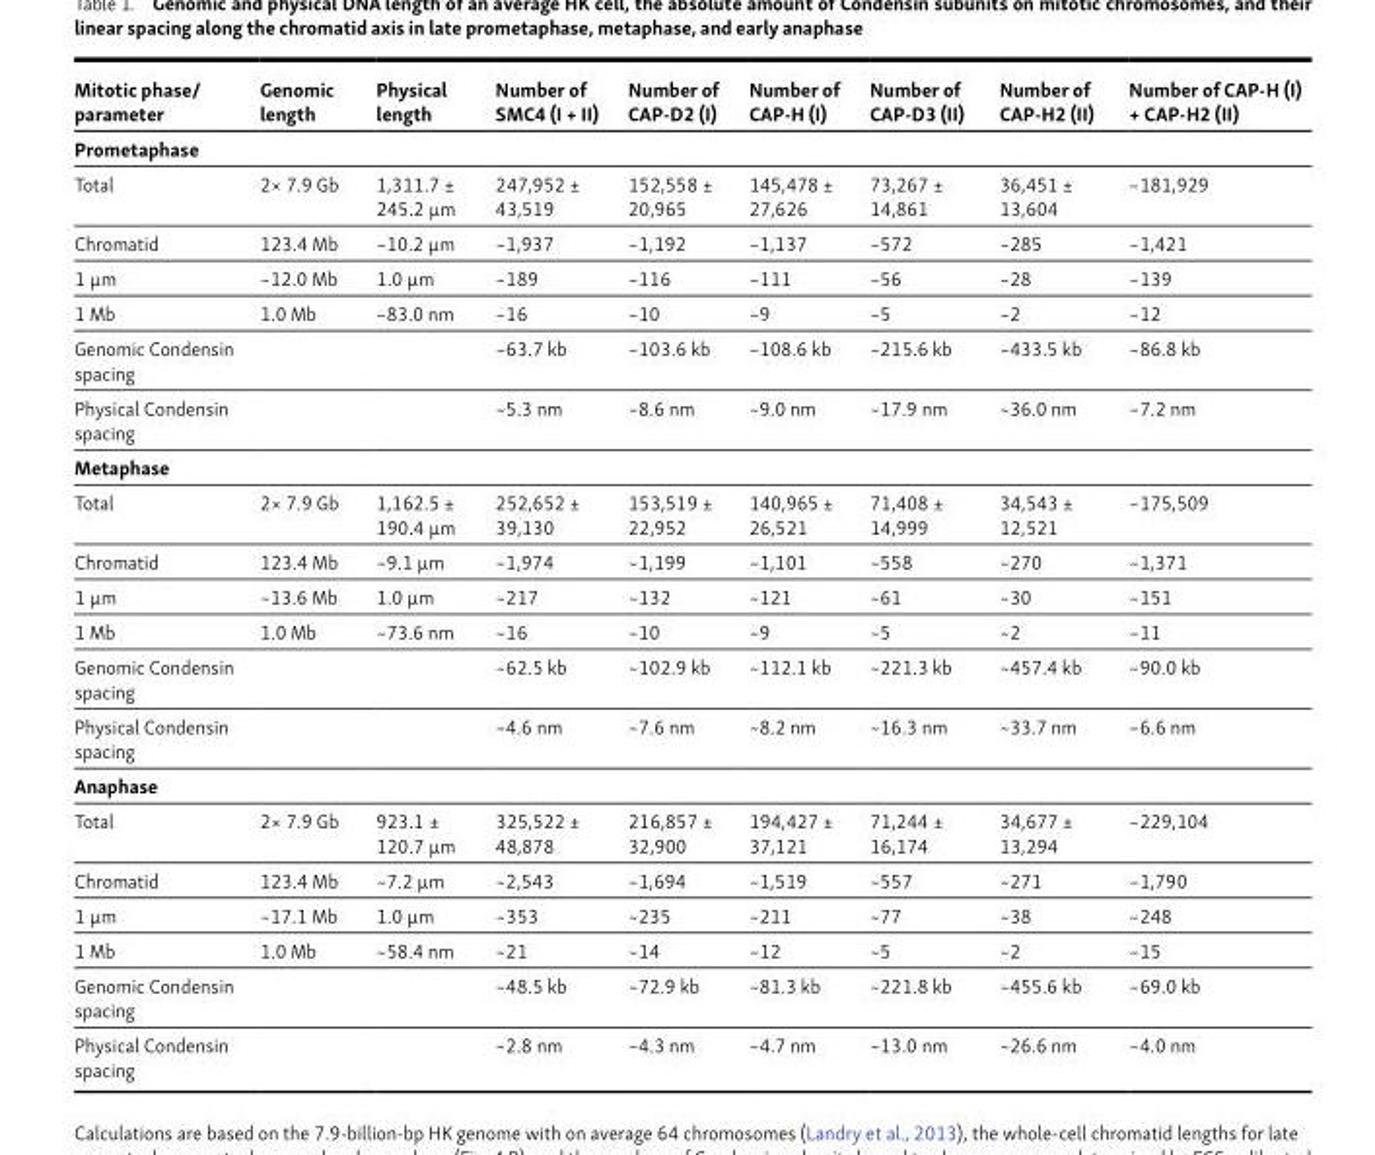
<table><thead><tr><td>Mitotic phase/ parameter</td><td>Genomic length</td><td>Physical length</td><td>Number of SMC4 (I + II)</td><td>Number of CAP-D2 (I)</td><td>Number of CAP-H (I)</td><td>Number of CAP-D3 (II)</td><td>Number of CAP-H2 (II)</td><td>Number of CAP-H (I) + CAP-H2 (II)</td></tr></thead><tbody><tr><td colspan="9">Prometaphase</td></tr><tr><td>Total</td><td>2× 7.9 Gb</td><td>1,311.7 ± 245.2 µm</td><td>247,952 ± 43,519</td><td>152,558 ± 20,965</td><td>145,478 ± 27,626</td><td>73,267 ± 14,861</td><td>36,451 ± 13,604</td><td>~181,929</td></tr><tr><td>Chromatid</td><td>123.4 Mb</td><td>~10.2 µm</td><td>~1,937</td><td>~1,192</td><td>~1,137</td><td>~572</td><td>~285</td><td>~1,421</td></tr><tr><td>1 µm</td><td>~12.0 Mb</td><td>1.0 µm</td><td>~189</td><td>~116</td><td>~111</td><td>~56</td><td>~28</td><td>~139</td></tr><tr><td>1 Mb</td><td>1.0 Mb</td><td>~83.0 nm</td><td>~16</td><td>~10</td><td>~9</td><td>~5</td><td>~2</td><td>~12</td></tr><tr><td>Genomic Condensin spacing</td><td></td><td></td><td>~63.7 kb</td><td>~103.6 kb</td><td>~108.6 kb</td><td>~215.6 kb</td><td>~433.5 kb</td><td>~86.8 kb</td></tr><tr><td>Physical Condensin spacing</td><td></td><td></td><td>~5.3 nm</td><td>~8.6 nm</td><td>~9.0 nm</td><td>~17.9 nm</td><td>~36.0 nm</td><td>~7.2 nm</td></tr><tr><td colspan="9">Metaphase</td></tr><tr><td>Total</td><td>2× 7.9 Gb</td><td>1,162.5 ± 190.4 µm</td><td>252,652 ± 39,130</td><td>153,519 ± 22,952</td><td>140,965 ± 26,521</td><td>71,408 ± 14,999</td><td>34,543 ± 12,521</td><td>~175,509</td></tr><tr><td>Chromatid</td><td>123.4 Mb</td><td>~9.1 µm</td><td>~1,974</td><td>~1,199</td><td>~1,101</td><td>~558</td><td>~270</td><td>~1,371</td></tr><tr><td>1 µm</td><td>~13.6 Mb</td><td>1.0 µm</td><td>~217</td><td>~132</td><td>~121</td><td>~61</td><td>~30</td><td>~151</td></tr><tr><td>1 Mb</td><td>1.0 Mb</td><td>~73.6 nm</td><td>~16</td><td>~10</td><td>~9</td><td>~5</td><td>~2</td><td>~11</td></tr><tr><td>Genomic Condensin spacing</td><td></td><td></td><td>~62.5 kb</td><td>~102.9 kb</td><td>~112.1 kb</td><td>~221.3 kb</td><td>~457.4 kb</td><td>~90.0 kb</td></tr><tr><td>Physical Condensin spacing</td><td></td><td></td><td>~4.6 nm</td><td>~7.6 nm</td><td>~8.2 nm</td><td>~16.3 nm</td><td>~33.7 nm</td><td>~6.6 nm</td></tr><tr><td colspan="9">Anaphase</td></tr><tr><td>Total</td><td>2× 7.9 Gb</td><td>923.1 ± 120.7 µm</td><td>325,522 ± 48,878</td><td>216,857 ± 32,900</td><td>194,427 ± 37,121</td><td>71,244 ± 16,174</td><td>34,677 ± 13,294</td><td>~229,104</td></tr><tr><td>Chromatid</td><td>123.4 Mb</td><td>~7.2 µm</td><td>~2,543</td><td>~1,694</td><td>~1,519</td><td>~557</td><td>~271</td><td>~1,790</td></tr><tr><td>1 µm</td><td>~17.1 Mb</td><td>1.0 µm</td><td>~353</td><td>~235</td><td>~211</td><td>~77</td><td>~38</td><td>~248</td></tr><tr><td>1 Mb</td><td>1.0 Mb</td><td>~58.4 nm</td><td>~21</td><td>~14</td><td>~12</td><td>~5</td><td>~2</td><td>~15</td></tr><tr><td>Genomic Condensin spacing</td><td></td><td></td><td>~48.5 kb</td><td>~72.9 kb</td><td>~81.3 kb</td><td>~221.8 kb</td><td>~455.6 kb</td><td>~69.0 kb</td></tr><tr><td>Physical Condensin spacing</td><td></td><td></td><td>~2.8 nm</td><td>~4.3 nm</td><td>~4.7 nm</td><td>~13.0 nm</td><td>~26.6 nm</td><td>~4.0 nm</td></tr></tbody></table>